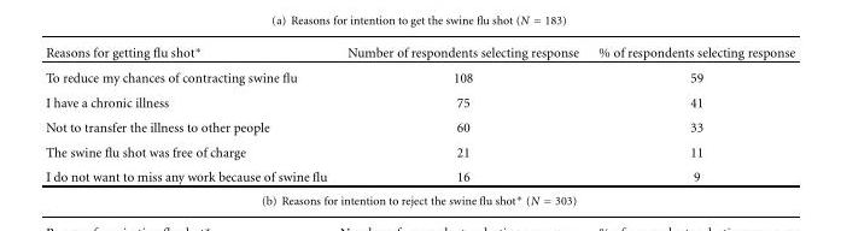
<table><thead><tr><td>Reasons for getting flu shot∗</td><td>Number of respondents selecting response</td><td>% of respondents selecting response</td></tr></thead><tbody><tr><td>To reduce my chances of contracting swine flu</td><td>108</td><td>59</td></tr><tr><td>I have a chronic illness</td><td>75</td><td>41</td></tr><tr><td>Not to transfer the illness to other people</td><td>60</td><td>33</td></tr><tr><td>The swine flu shot was free of charge</td><td>21</td><td>11</td></tr><tr><td>I do not want to miss any work because of swine flu</td><td>16</td><td>9</td></tr></tbody></table>